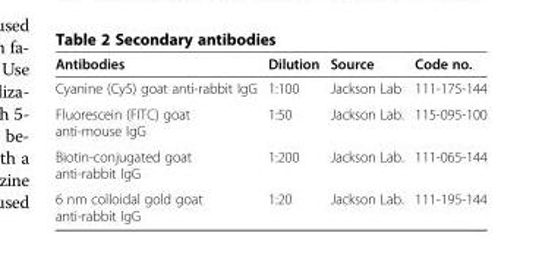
<table><thead><tr><td>Antibodies</td><td>Dilution</td><td>Source</td><td>Code no.</td></tr></thead><tbody><tr><td>Cyanine (Cy5) goat anti-rabbit IgG</td><td>1:100</td><td>Jackson Lab</td><td>111-175-144</td></tr><tr><td>Fluorescein (FITC) goat anti-mouse IgG</td><td>1:50</td><td>Jackson Lab.</td><td>115-095-100</td></tr><tr><td>Biotin-conjugated goat anti-rabbit IgG</td><td>1:200</td><td>Jackson Lab.</td><td>111-065-144</td></tr><tr><td>6 nm colloidal gold goat anti-rabbit IgG</td><td>1:20</td><td>Jackson Lab.</td><td>111-195-144</td></tr></tbody></table>